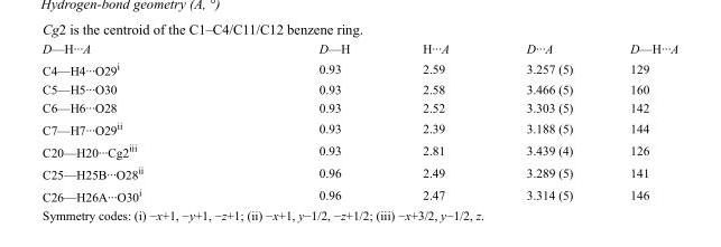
<table><tbody><tr><td>D—H···A</td><td>D—H</td><td>H···A</td><td>D···A</td><td>D—H···A</td></tr><tr><td>C4—H4···O29<sup>i</sup></td><td>0.93</td><td>2.59</td><td>3.257 (5)</td><td>129</td></tr><tr><td>C5—H5···O30</td><td>0.93</td><td>2.58</td><td>3.466 (5)</td><td>160</td></tr><tr><td>C6—H6···O28</td><td>0.93</td><td>2.52</td><td>3.303 (5)</td><td>142</td></tr><tr><td>C7—H7···O29<sup>ii</sup></td><td>0.93</td><td>2.39</td><td>3.188 (5)</td><td>144</td></tr><tr><td>C20—H20···Cg2<sup>iii</sup></td><td>0.93</td><td>2.81</td><td>3.439 (4)</td><td>126</td></tr><tr><td>C25—H25B···O28<sup>ii</sup></td><td>0.96</td><td>2.49</td><td>3.289 (5)</td><td>141</td></tr><tr><td>C26—H26A···O30<sup>i</sup></td><td>0.96</td><td>2.47</td><td>3.314 (5)</td><td>146</td></tr></tbody></table>